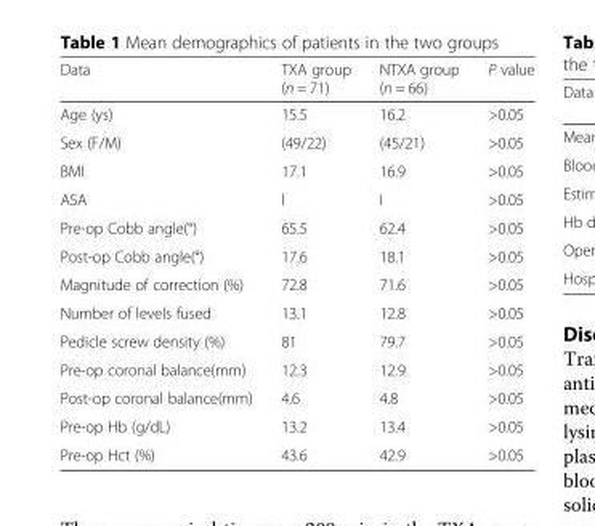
<table><thead><tr><td>Data</td><td>TXA group (n = 71)</td><td>NTXA group (n = 66)</td><td>P value</td></tr></thead><tbody><tr><td>Age (ys)</td><td>15.5</td><td>16.2</td><td>&gt;0.05</td></tr><tr><td>Sex (F/M)</td><td>(49/22)</td><td>(45/21)</td><td>&gt;0.05</td></tr><tr><td>BMI</td><td>17.1</td><td>16.9</td><td>&gt;0.05</td></tr><tr><td>ASA</td><td>I</td><td>I</td><td>&gt;0.05</td></tr><tr><td>Pre-op Cobb angle(°)</td><td>65.5</td><td>62.4</td><td>&gt;0.05</td></tr><tr><td>Post-op Cobb angle(°)</td><td>17.6</td><td>18.1</td><td>&gt;0.05</td></tr><tr><td>Magnitude of correction (%)</td><td>72.8</td><td>71.6</td><td>&gt;0.05</td></tr><tr><td>Number of levels fused</td><td>13.1</td><td>12.8</td><td>&gt;0.05</td></tr><tr><td>Pedicle screw density (%)</td><td>81</td><td>79.7</td><td>&gt;0.05</td></tr><tr><td>Pre-op coronal balance(mm)</td><td>12.3</td><td>12.9</td><td>&gt;0.05</td></tr><tr><td>Post-op coronal balance(mm)</td><td>4.6</td><td>4.8</td><td>&gt;0.05</td></tr><tr><td>Pre-op Hb (g/dL)</td><td>13.2</td><td>13.4</td><td>&gt;0.05</td></tr><tr><td>Pre-op Hct (%)</td><td>43.6</td><td>42.9</td><td>&gt;0.05</td></tr></tbody></table>